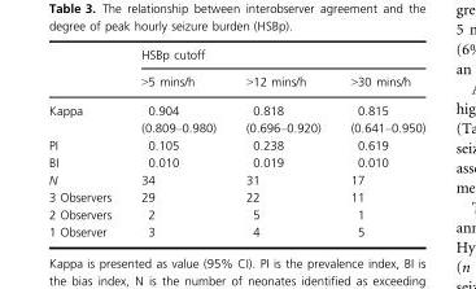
<table><thead><tr><td rowspan="2"></td><td colspan="3">HSBp cutoff</td></tr><tr><td>&gt;5 mins/h</td><td>&gt;12 mins/h</td><td>&gt;30 mins/h</td></tr></thead><tbody><tr><td>Kappa</td><td>0.904 (0.809–0.980)</td><td>0.818 (0.696–0.920)</td><td>0.815 (0.641–0.950)</td></tr><tr><td>PI</td><td>0.105</td><td>0.238</td><td>0.619</td></tr><tr><td>BI</td><td>0.010</td><td>0.019</td><td>0.010</td></tr><tr><td>N</td><td>34</td><td>31</td><td>17</td></tr><tr><td>3 Observers</td><td>29</td><td>22</td><td>11</td></tr><tr><td>2 Observers</td><td>2</td><td>5</td><td>1</td></tr><tr><td>1 Observer</td><td>3</td><td>4</td><td>5</td></tr></tbody></table>